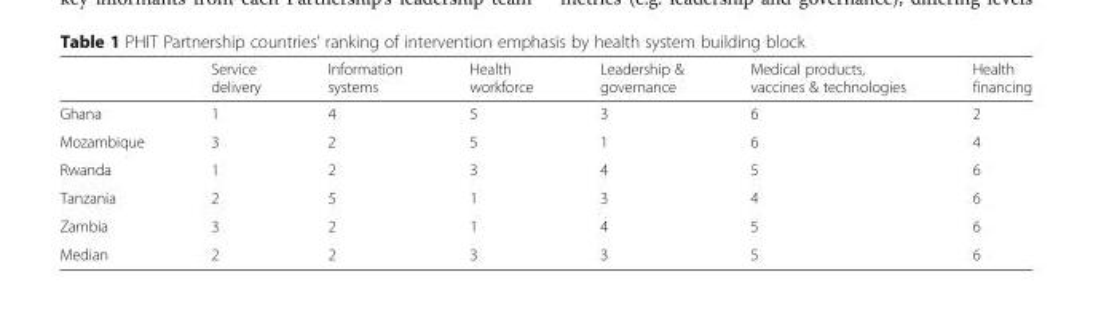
<table><thead><tr><td></td><td>Service delivery</td><td>Information systems</td><td>Health workforce</td><td>Leadership &amp; governance</td><td>Medical products, vaccines &amp; technologies</td><td>Health financing</td></tr></thead><tbody><tr><td>Ghana</td><td>1</td><td>4</td><td>5</td><td>3</td><td>6</td><td>2</td></tr><tr><td>Mozambique</td><td>3</td><td>2</td><td>5</td><td>1</td><td>6</td><td>4</td></tr><tr><td>Rwanda</td><td>1</td><td>2</td><td>3</td><td>4</td><td>5</td><td>6</td></tr><tr><td>Tanzania</td><td>2</td><td>5</td><td>1</td><td>3</td><td>4</td><td>6</td></tr><tr><td>Zambia</td><td>3</td><td>2</td><td>1</td><td>4</td><td>5</td><td>6</td></tr><tr><td>Median</td><td>2</td><td>2</td><td>3</td><td>3</td><td>5</td><td>6</td></tr></tbody></table>